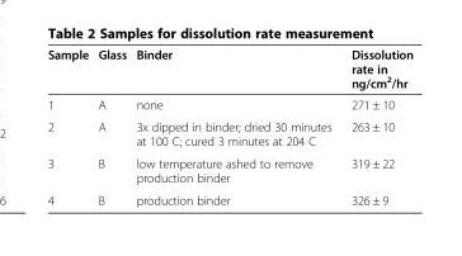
<table><thead><tr><td>Sample</td><td>Glass</td><td>Binder</td><td>Dissolution rate in ng/cm<sup>2</sup>/hr</td></tr></thead><tbody><tr><td>1</td><td>A</td><td>none</td><td>271 ± 10</td></tr><tr><td>2</td><td>A</td><td>3x dipped in binder; dried 30 minutes at 100 C; cured 3 minutes at 204 C</td><td>263 ± 10</td></tr><tr><td>3</td><td>B</td><td>low temperature ashed to remove production binder</td><td>319 ± 22</td></tr><tr><td>4</td><td>B</td><td>production binder</td><td>326 ± 9</td></tr></tbody></table>